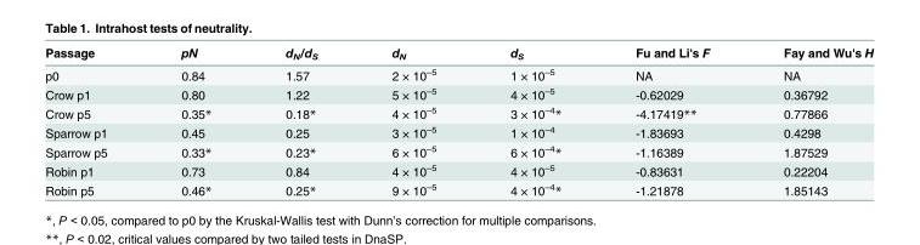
<table><thead><tr><td>Passage</td><td>pN</td><td>d<sub>N</sub>/d<sub>S</sub></td><td>d<sub>N</sub></td><td>d<sub>S</sub></td><td>Fu and Li&#x27;s F</td><td>Fay and Wu&#x27;s H</td></tr></thead><tbody><tr><td>p0</td><td>0.84</td><td>1.57</td><td>2 × 10<sup>–5</sup></td><td>1 × 10<sup>–5</sup></td><td>NA</td><td>NA</td></tr><tr><td>Crow p1</td><td>0.80</td><td>1.22</td><td>5 × 10<sup>–5</sup></td><td>4 × 10<sup>–5</sup></td><td>-0.62029</td><td>0.36792</td></tr><tr><td>Crow p5</td><td>0.35*</td><td>0.18*</td><td>4 × 10<sup>–5</sup></td><td>3 × 10<sup>–4</sup>*</td><td>-4.17419**</td><td>0.77866</td></tr><tr><td>Sparrow p1</td><td>0.45</td><td>0.25</td><td>3 × 10<sup>–5</sup></td><td>1 × 10<sup>–4</sup></td><td>-1.83693</td><td>0.4298</td></tr><tr><td>Sparrow p5</td><td>0.33*</td><td>0.23*</td><td>6 × 10<sup>–5</sup></td><td>6 × 10<sup>–4</sup>*</td><td>-1.16389</td><td>1.87529</td></tr><tr><td>Robin p1</td><td>0.73</td><td>0.84</td><td>4 × 10<sup>–5</sup></td><td>4 × 10<sup>–5</sup></td><td>-0.83631</td><td>0.22204</td></tr><tr><td>Robin p5</td><td>0.46*</td><td>0.25*</td><td>9 × 10<sup>–5</sup></td><td>4 × 10<sup>–4</sup>*</td><td>-1.21878</td><td>1.85143</td></tr></tbody></table>